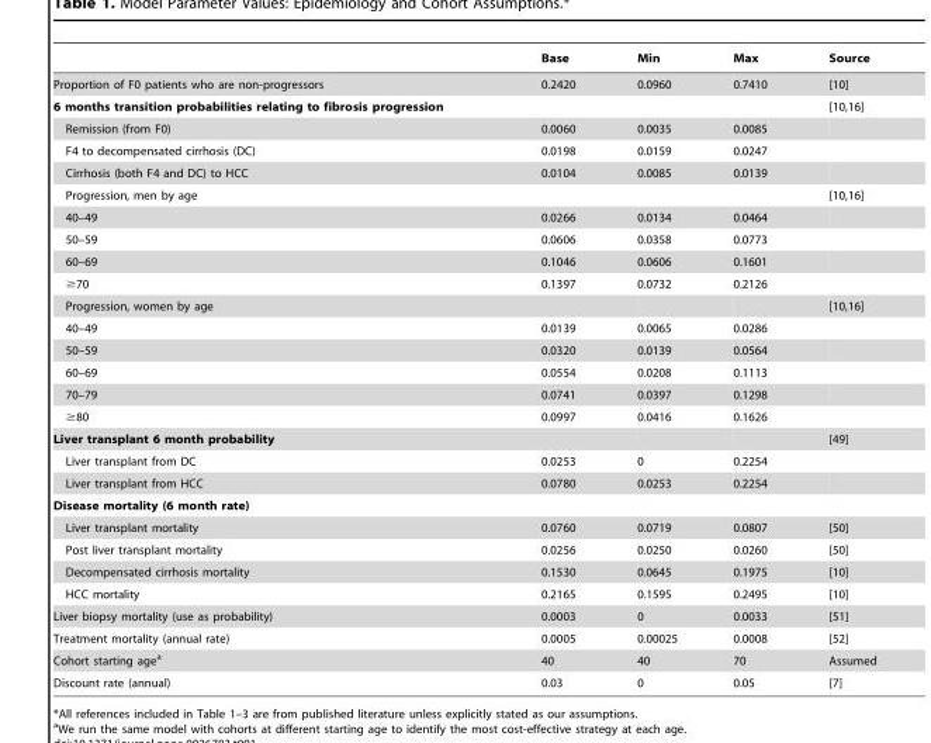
<table><thead><tr><td></td><td>Base</td><td>Min</td><td>Max</td><td>Source</td></tr></thead><tbody><tr><td>Proportion of F0 patients who are non-progressors</td><td>0.2420</td><td>0.0960</td><td>0.7410</td><td>[10]</td></tr><tr><td>6 months transition probabilities relating to fibrosis progression</td><td></td><td></td><td></td><td>[10,16]</td></tr><tr><td>Remission (from F0)</td><td>0.0060</td><td>0.0035</td><td>0.0085</td><td></td></tr><tr><td>F4 to decompensated cirrhosis (DC)</td><td>0.0198</td><td>0.0159</td><td>0.0247</td><td></td></tr><tr><td>Cirrhosis (both F4 and DC) to HCC</td><td>0.0104</td><td>0.0085</td><td>0.0139</td><td></td></tr><tr><td>Progression, men by age</td><td></td><td></td><td></td><td>[10,16]</td></tr><tr><td>40–49</td><td>0.0266</td><td>0.0134</td><td>0.0464</td><td></td></tr><tr><td>50–59</td><td>0.0606</td><td>0.0358</td><td>0.0773</td><td></td></tr><tr><td>60–69</td><td>0.1046</td><td>0.0606</td><td>0.1601</td><td></td></tr><tr><td>≥70</td><td>0.1397</td><td>0.0732</td><td>0.2126</td><td></td></tr><tr><td>Progression, women by age</td><td></td><td></td><td></td><td>[10,16]</td></tr><tr><td>40–49</td><td>0.0139</td><td>0.0065</td><td>0.0286</td><td></td></tr><tr><td>50–59</td><td>0.0320</td><td>0.0139</td><td>0.0564</td><td></td></tr><tr><td>60–69</td><td>0.0554</td><td>0.0208</td><td>0.1113</td><td></td></tr><tr><td>70–79</td><td>0.0741</td><td>0.0397</td><td>0.1298</td><td></td></tr><tr><td>≥80</td><td>0.0997</td><td>0.0416</td><td>0.1626</td><td></td></tr><tr><td>Liver transplant 6 month probability</td><td></td><td></td><td></td><td>[49]</td></tr><tr><td>Liver transplant from DC</td><td>0.0253</td><td>0</td><td>0.2254</td><td></td></tr><tr><td>Liver transplant from HCC</td><td>0.0780</td><td>0.0253</td><td>0.2254</td><td></td></tr><tr><td colspan="5">Disease mortality (6 month rate)</td></tr><tr><td>Liver transplant mortality</td><td>0.0760</td><td>0.0719</td><td>0.0807</td><td>[50]</td></tr><tr><td>Post liver transplant mortality</td><td>0.0256</td><td>0.0250</td><td>0.0260</td><td>[50]</td></tr><tr><td>Decompensated cirrhosis mortality</td><td>0.1530</td><td>0.0645</td><td>0.1975</td><td>[10]</td></tr><tr><td>HCC mortality</td><td>0.2165</td><td>0.1595</td><td>0.2495</td><td>[10]</td></tr><tr><td>Liver biopsy mortality (use as probability)</td><td>0.0003</td><td>0</td><td>0.0033</td><td>[51]</td></tr><tr><td>Treatment mortality (annual rate)</td><td>0.0005</td><td>0.00025</td><td>0.0008</td><td>[52]</td></tr><tr><td>Cohort starting age<sup>a</sup></td><td>40</td><td>40</td><td>70</td><td>Assumed</td></tr><tr><td>Discount rate (annual)</td><td>0.03</td><td>0</td><td>0.05</td><td>[7]</td></tr></tbody></table>